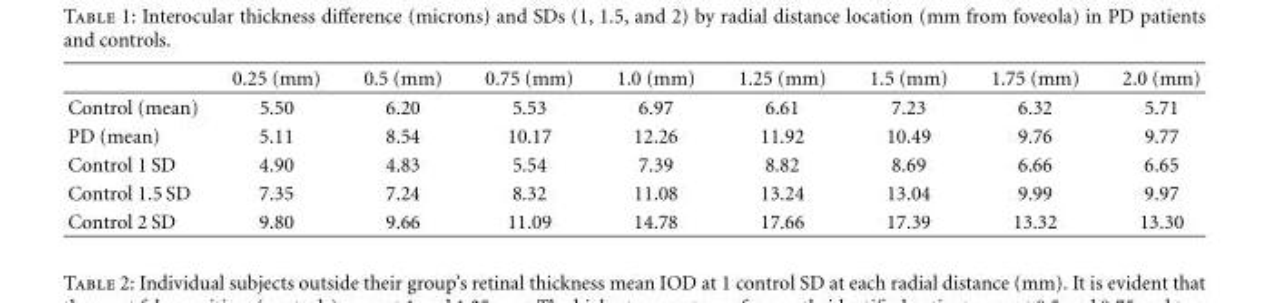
<table><thead><tr><td></td><td>0.25 (mm)</td><td>0.5 (mm)</td><td>0.75 (mm)</td><td>1.0 (mm)</td><td>1.25 (mm)</td><td>1.5 (mm)</td><td>1.75 (mm)</td><td>2.0 (mm)</td></tr></thead><tbody><tr><td>Control (mean)</td><td>5.50</td><td>6.20</td><td>5.53</td><td>6.97</td><td>6.61</td><td>7.23</td><td>6.32</td><td>5.71</td></tr><tr><td>PD (mean)</td><td>5.11</td><td>8.54</td><td>10.17</td><td>12.26</td><td>11.92</td><td>10.49</td><td>9.76</td><td>9.77</td></tr><tr><td>Control 1 SD</td><td>4.90</td><td>4.83</td><td>5.54</td><td>7.39</td><td>8.82</td><td>8.69</td><td>6.66</td><td>6.65</td></tr><tr><td>Control 1.5 SD</td><td>7.35</td><td>7.24</td><td>8.32</td><td>11.08</td><td>13.24</td><td>13.04</td><td>9.99</td><td>9.97</td></tr><tr><td>Control 2 SD</td><td>9.80</td><td>9.66</td><td>11.09</td><td>14.78</td><td>17.66</td><td>17.39</td><td>13.32</td><td>13.30</td></tr></tbody></table>